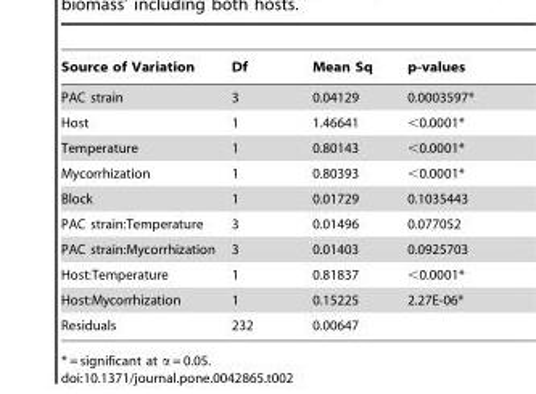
<table><thead><tr><td>Source of Variation</td><td>Df</td><td>Mean Sq</td><td>p-values</td></tr></thead><tbody><tr><td>PAC strain</td><td>3</td><td>0.04129</td><td>0.0003597*</td></tr><tr><td>Host</td><td>1</td><td>1.46641</td><td>&lt;0.0001*</td></tr><tr><td>Temperature</td><td>1</td><td>0.80143</td><td>&lt;0.0001*</td></tr><tr><td>Mycorrhization</td><td>1</td><td>0.80393</td><td>&lt;0.0001*</td></tr><tr><td>Block</td><td>1</td><td>0.01729</td><td>0.1035443</td></tr><tr><td>PAC strain:Temperature</td><td>3</td><td>0.01496</td><td>0.077052</td></tr><tr><td>PAC strain:Mycorrhization</td><td>3</td><td>0.01403</td><td>0.0925703</td></tr><tr><td>Host:Temperature</td><td>1</td><td>0.81837</td><td>&lt;0.0001*</td></tr><tr><td>Host:Mycorrhization</td><td>1</td><td>0.15225</td><td>2.27E-06*</td></tr><tr><td>Residuals</td><td>232</td><td>0.00647</td><td></td></tr></tbody></table>